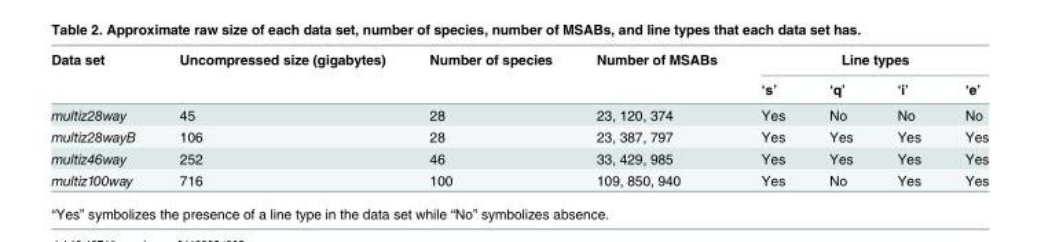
<table><thead><tr><td rowspan="2">Data set</td><td rowspan="2">Uncompressed size (gigabytes)</td><td rowspan="2">Number of species</td><td rowspan="2">Number of MSABs</td><td colspan="4">Line types</td></tr><tr><td>‘s’</td><td>‘q’</td><td>‘i’</td><td>‘e’</td></tr></thead><tbody><tr><td>multiz28way</td><td>45</td><td>28</td><td>23, 120, 374</td><td>Yes</td><td>No</td><td>No</td><td>No</td></tr><tr><td>multiz28wayB</td><td>106</td><td>28</td><td>23, 387, 797</td><td>Yes</td><td>Yes</td><td>Yes</td><td>Yes</td></tr><tr><td>multiz46way</td><td>252</td><td>46</td><td>33, 429, 985</td><td>Yes</td><td>Yes</td><td>Yes</td><td>Yes</td></tr><tr><td>multiz100way</td><td>716</td><td>100</td><td>109, 850, 940</td><td>Yes</td><td>No</td><td>Yes</td><td>Yes</td></tr></tbody></table>